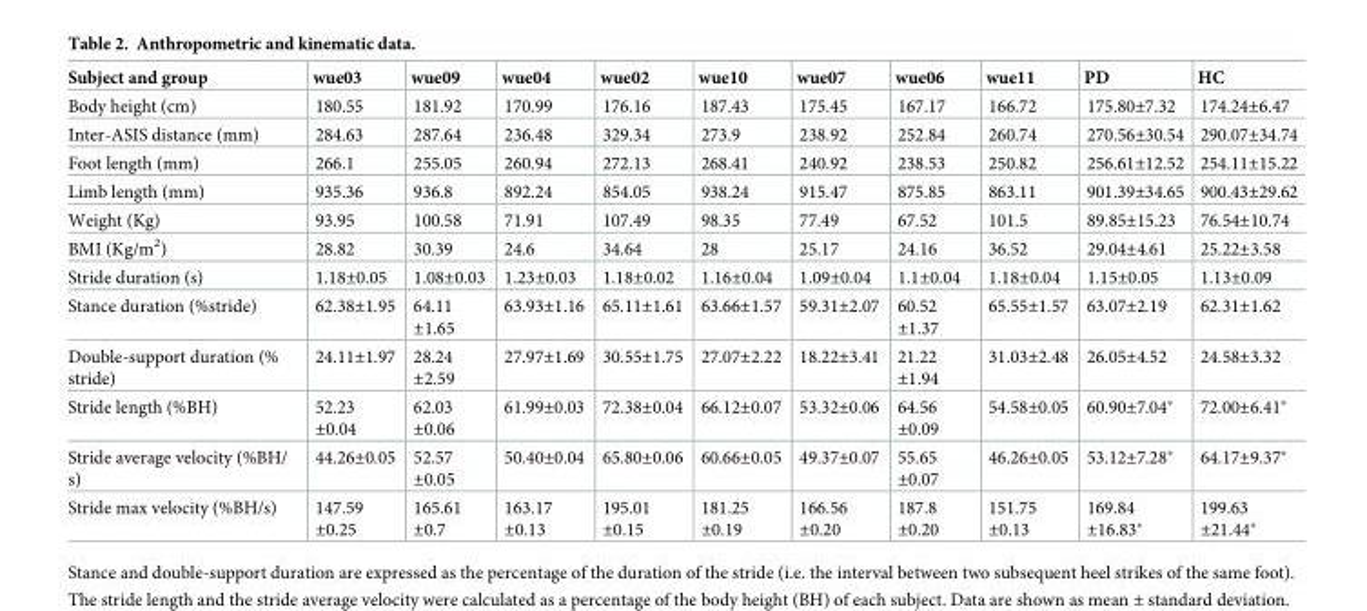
<table><thead><tr><td>Subject and group</td><td>wue03</td><td>wue09</td><td>wue04</td><td>wue02</td><td>wue10</td><td>wue07</td><td>wue06</td><td>wue11</td><td>PD</td><td>HC</td></tr></thead><tbody><tr><td>Body height (cm)</td><td>180.55</td><td>181.92</td><td>170.99</td><td>176.16</td><td>187.43</td><td>175.45</td><td>167.17</td><td>166.72</td><td>175.80±7.32</td><td>174.24±6.47</td></tr><tr><td>Inter-ASIS distance (mm)</td><td>284.63</td><td>287.64</td><td>236.48</td><td>329.34</td><td>273.9</td><td>238.92</td><td>252.84</td><td>260.74</td><td>270.56±30.54</td><td>290.07±34.74</td></tr><tr><td>Foot length (mm)</td><td>266.1</td><td>255.05</td><td>260.94</td><td>272.13</td><td>268.41</td><td>240.92</td><td>238.53</td><td>250.82</td><td>256.61±12.52</td><td>254.11±15.22</td></tr><tr><td>Limb length (mm)</td><td>935.36</td><td>936.8</td><td>892.24</td><td>854.05</td><td>938.24</td><td>915.47</td><td>875.85</td><td>863.11</td><td>901.39±34.65</td><td>900.43±29.62</td></tr><tr><td>Weight (Kg)</td><td>93.95</td><td>100.58</td><td>71.91</td><td>107.49</td><td>98.35</td><td>77.49</td><td>67.52</td><td>101.5</td><td>89.85±15.23</td><td>76.54±10.74</td></tr><tr><td>BMI (Kg/m<sup>2</sup>)</td><td>28.82</td><td>30.39</td><td>24.6</td><td>34.64</td><td>28</td><td>25.17</td><td>24.16</td><td>36.52</td><td>29.04±4.61</td><td>25.22±3.58</td></tr><tr><td>Stride duration (s)</td><td>1.18±0.05</td><td>1.08±0.03</td><td>1.23±0.03</td><td>1.18±0.02</td><td>1.16±0.04</td><td>1.09±0.04</td><td>1.1±0.04</td><td>1.18±0.04</td><td>1.15±0.05</td><td>1.13±0.09</td></tr><tr><td>Stance duration (%stride)</td><td>62.38±1.95</td><td>64.11 ±1.65</td><td>63.93±1.16</td><td>65.11±1.61</td><td>63.66±1.57</td><td>59.31±2.07</td><td>60.52 ±1.37</td><td>65.55±1.57</td><td>63.07±2.19</td><td>62.31±1.62</td></tr><tr><td>Double-support duration (% stride)</td><td>24.11±1.97</td><td>28.24 ±2.59</td><td>27.97±1.69</td><td>30.55±1.75</td><td>27.07±2.22</td><td>18.22±3.41</td><td>21.22 ±1.94</td><td>31.03±2.48</td><td>26.05±4.52</td><td>24.58±3.32</td></tr><tr><td>Stride length (%BH)</td><td>52.23 ±0.04</td><td>62.03 ±0.06</td><td>61.99±0.03</td><td>72.38±0.04</td><td>66.12±0.07</td><td>53.32±0.06</td><td>64.56 ±0.09</td><td>54.58±0.05</td><td>60.90±7.04*</td><td>72.00±6.41*</td></tr><tr><td>Stride average velocity (%BH/ s)</td><td>44.26±0.05</td><td>52.57 ±0.05</td><td>50.40±0.04</td><td>65.80±0.06</td><td>60.66±0.05</td><td>49.37±0.07</td><td>55.65 ±0.07</td><td>46.26±0.05</td><td>53.12±7.28*</td><td>64.17±9.37*</td></tr><tr><td>Stride max velocity (%BH/s)</td><td>147.59 ±0.25</td><td>165.61 ±0.7</td><td>163.17 ±0.13</td><td>195.01 ±0.15</td><td>181.25 ±0.19</td><td>166.56 ±0.20</td><td>187.8 ±0.20</td><td>151.75 ±0.13</td><td>169.84 ±16.83*</td><td>199.63 ±21.44*</td></tr></tbody></table>